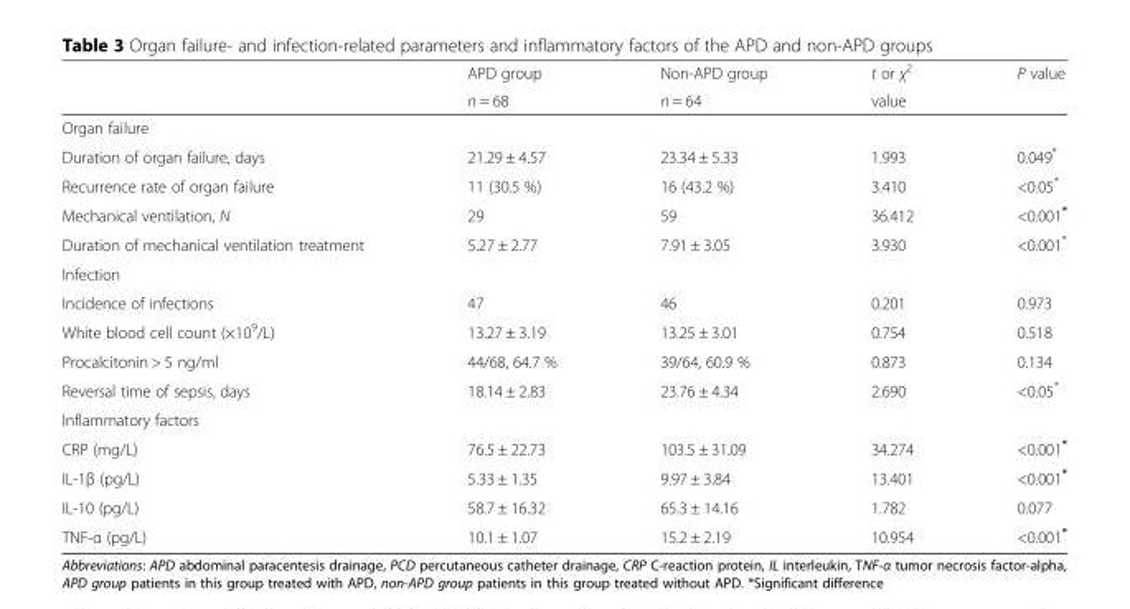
<table><thead><tr><td rowspan="2"></td><td rowspan="2">APD group n = 68</td><td rowspan="2">Non-APD group n = 64</td><td rowspan="2">t or χ<sup>2</sup> value</td><td rowspan="2">P value</td></tr><tr></tr></thead><tbody><tr><td colspan="5">Organ failure</td></tr><tr><td>Duration of organ failure, days</td><td>21.29 ± 4.57</td><td>23.34 ± 5.33</td><td>1.993</td><td>0.049*</td></tr><tr><td>Recurrence rate of organ failure</td><td>11 (30.5 %)</td><td>16 (43.2 %)</td><td>3.410</td><td>&lt;0.05*</td></tr><tr><td>Mechanical ventilation, N</td><td>29</td><td>59</td><td>36.412</td><td>&lt;0.001*</td></tr><tr><td>Duration of mechanical ventilation treatment</td><td>5.27 ± 2.77</td><td>7.91 ± 3.05</td><td>3.930</td><td>&lt;0.001*</td></tr><tr><td colspan="5">Infection</td></tr><tr><td>Incidence of infections</td><td>47</td><td>46</td><td>0.201</td><td>0.973</td></tr><tr><td>White blood cell count (×10<sup>9</sup>/L)</td><td>13.27 ± 3.19</td><td>13.25 ± 3.01</td><td>0.754</td><td>0.518</td></tr><tr><td>Procalcitonin &gt; 5 ng/ml</td><td>44/68, 64.7 %</td><td>39/64, 60.9 %</td><td>0.873</td><td>0.134</td></tr><tr><td>Reversal time of sepsis, days</td><td>18.14 ± 2.83</td><td>23.76 ± 4.34</td><td>2.690</td><td>&lt;0.05*</td></tr><tr><td colspan="5">Inflammatory factors</td></tr><tr><td>CRP (mg/L)</td><td>76.5 ± 22.73</td><td>103.5 ± 31.09</td><td>34.274</td><td>&lt;0.001*</td></tr><tr><td>IL-1β (pg/L)</td><td>5.33 ± 1.35</td><td>9.97 ± 3.84</td><td>13.401</td><td>&lt;0.001*</td></tr><tr><td>IL-10 (pg/L)</td><td>58.7 ± 16.32</td><td>65.3 ± 14.16</td><td>1.782</td><td>0.077</td></tr><tr><td>TNF-α (pg/L)</td><td>10.1 ± 1.07</td><td>15.2 ± 2.19</td><td>10.954</td><td>&lt;0.001*</td></tr></tbody></table>